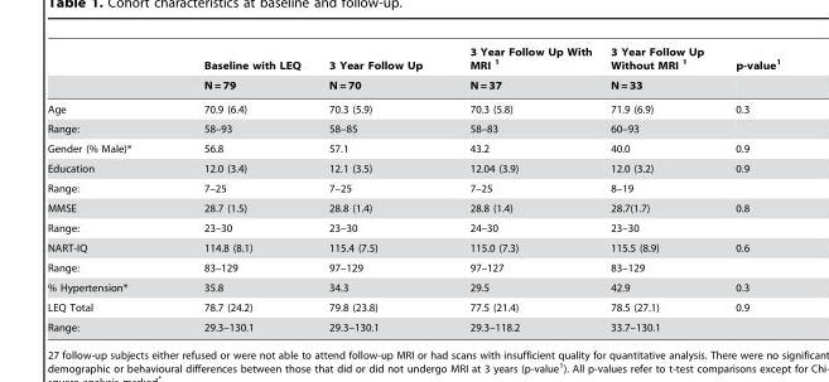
<table><thead><tr><td rowspan="2"></td><td rowspan="2">Baseline with LEQ N = 79</td><td rowspan="2">3 Year Follow Up N = 70</td><td rowspan="2">3 Year Follow Up With MRI <sup>1</sup> N = 37</td><td rowspan="2">3 Year Follow Up Without MRI <sup>1</sup> N = 33</td><td rowspan="2">p-value<sup>1</sup></td></tr><tr></tr></thead><tbody><tr><td>Age</td><td>70.9 (6.4)</td><td>70.3 (5.9)</td><td>70.3 (5.8)</td><td>71.9 (6.9)</td><td>0.3</td></tr><tr><td>Range:</td><td>58–93</td><td>58–85</td><td>58–83</td><td>60–93</td><td></td></tr><tr><td>Gender (% Male)*</td><td>56.8</td><td>57.1</td><td>43.2</td><td>40.0</td><td>0.9</td></tr><tr><td>Education</td><td>12.0 (3.4)</td><td>12.1 (3.5)</td><td>12.04 (3.9)</td><td>12.0 (3.2)</td><td>0.9</td></tr><tr><td>Range:</td><td>7–25</td><td>7–25</td><td>7–25</td><td>8–19</td><td></td></tr><tr><td>MMSE</td><td>28.7 (1.5)</td><td>28.8 (1.4)</td><td>28.8 (1.4)</td><td>28.7(1.7)</td><td>0.8</td></tr><tr><td>Range:</td><td>23–30</td><td>23–30</td><td>24–30</td><td>23–30</td><td></td></tr><tr><td>NART-IQ</td><td>114.8 (8.1)</td><td>115.4 (7.5)</td><td>115.0 (7.3)</td><td>115.5 (8.9)</td><td>0.6</td></tr><tr><td>Range:</td><td>83–129</td><td>97–129</td><td>97–127</td><td>83–129</td><td></td></tr><tr><td>% Hypertension*</td><td>35.8</td><td>34.3</td><td>29.5</td><td>42.9</td><td>0.3</td></tr><tr><td>LEQ Total</td><td>78.7 (24.2)</td><td>79.8 (23.8)</td><td>77.5 (21.4)</td><td>78.5 (27.1)</td><td>0.9</td></tr><tr><td>Range:</td><td>29.3–130.1</td><td>29.3–130.1</td><td>29.3–118.2</td><td>33.7–130.1</td><td></td></tr></tbody></table>